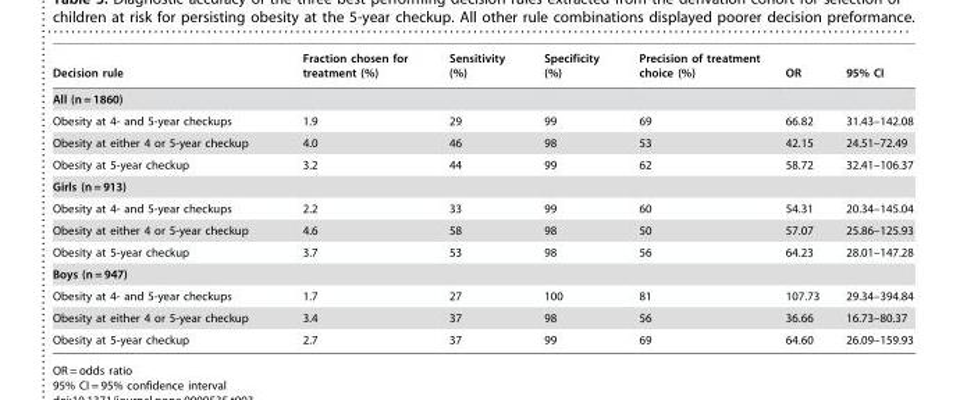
<table><thead><tr><td>Decision rule</td><td>Fraction chosen for treatment (%)</td><td>Sensitivity (%)</td><td>Specificity (%)</td><td>Precision of treatment choice (%)</td><td>OR</td><td>95% CI</td></tr></thead><tbody><tr><td colspan="7">All (n = 1860)</td></tr><tr><td>Obesity at 4- and 5-year checkups</td><td>1.9</td><td>29</td><td>99</td><td>69</td><td>66.82</td><td>31.43–142.08</td></tr><tr><td>Obesity at either 4 or 5-year checkup</td><td>4.0</td><td>46</td><td>98</td><td>53</td><td>42.15</td><td>24.51–72.49</td></tr><tr><td>Obesity at 5-year checkup</td><td>3.2</td><td>44</td><td>99</td><td>62</td><td>58.72</td><td>32.41–106.37</td></tr><tr><td colspan="7">Girls (n = 913)</td></tr><tr><td>Obesity at 4- and 5-year checkups</td><td>2.2</td><td>33</td><td>99</td><td>60</td><td>54.31</td><td>20.34–145.04</td></tr><tr><td>Obesity at either 4 or 5-year checkup</td><td>4.6</td><td>58</td><td>98</td><td>50</td><td>57.07</td><td>25.86–125.93</td></tr><tr><td>Obesity at 5-year checkup</td><td>3.7</td><td>53</td><td>98</td><td>56</td><td>64.23</td><td>28.01–147.28</td></tr><tr><td colspan="7">Boys (n = 947)</td></tr><tr><td>Obesity at 4- and 5-year checkups</td><td>1.7</td><td>27</td><td>100</td><td>81</td><td>107.73</td><td>29.34–394.84</td></tr><tr><td>Obesity at either 4 or 5-year checkup</td><td>3.4</td><td>37</td><td>98</td><td>56</td><td>36.66</td><td>16.73–80.37</td></tr><tr><td>Obesity at 5-year checkup</td><td>2.7</td><td>37</td><td>99</td><td>69</td><td>64.60</td><td>26.09–159.93</td></tr></tbody></table>